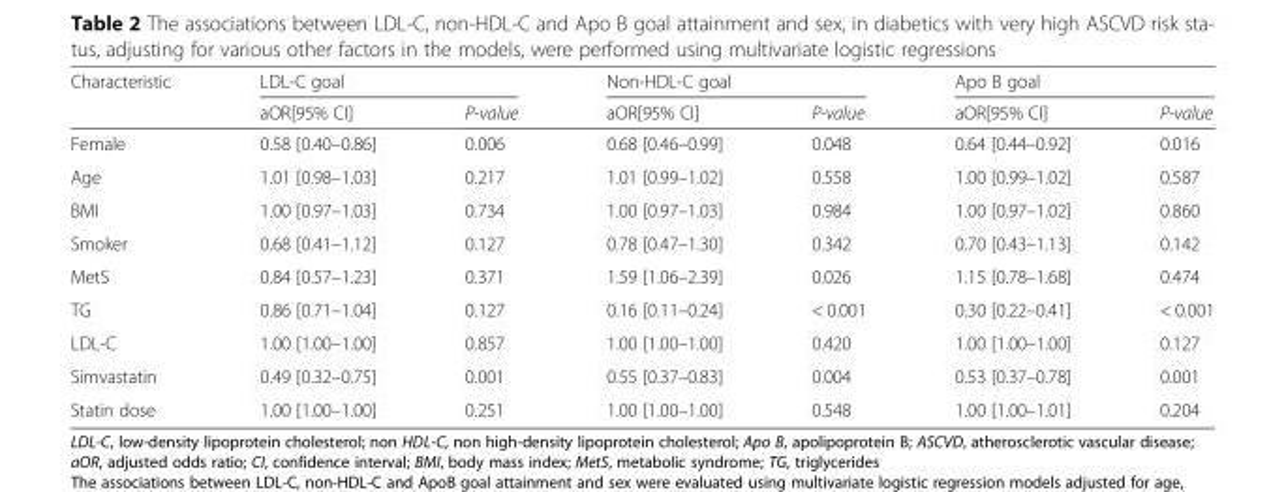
<table><thead><tr><td rowspan="2">Characteristic</td><td colspan="2">LDL-C goal</td><td colspan="2">Non-HDL-C goal</td><td colspan="2">Apo B goal</td></tr><tr><td>aOR[95% CI]</td><td>P-value</td><td>aOR[95% CI]</td><td>P-value</td><td>aOR[95% CI]</td><td>P-value</td></tr></thead><tbody><tr><td>Female</td><td>0.58 [0.40–0.86]</td><td>0.006</td><td>0.68 [0.46–0.99]</td><td>0.048</td><td>0.64 [0.44–0.92]</td><td>0.016</td></tr><tr><td>Age</td><td>1.01 [0.98–1.03]</td><td>0.217</td><td>1.01 [0.99–1.02]</td><td>0.558</td><td>1.00 [0.99–1.02]</td><td>0.587</td></tr><tr><td>BMI</td><td>1.00 [0.97–1.03]</td><td>0.734</td><td>1.00 [0.97–1.03]</td><td>0.984</td><td>1.00 [0.97–1.02]</td><td>0.860</td></tr><tr><td>Smoker</td><td>0.68 [0.41–1.12]</td><td>0.127</td><td>0.78 [0.47–1.30]</td><td>0.342</td><td>0.70 [0.43–1.13]</td><td>0.142</td></tr><tr><td>MetS</td><td>0.84 [0.57–1.23]</td><td>0.371</td><td>1.59 [1.06–2.39]</td><td>0.026</td><td>1.15 [0.78–1.68]</td><td>0.474</td></tr><tr><td>TG</td><td>0.86 [0.71–1.04]</td><td>0.127</td><td>0.16 [0.11–0.24]</td><td>&lt; 0.001</td><td>0.30 [0.22–0.41]</td><td>&lt; 0.001</td></tr><tr><td>LDL-C</td><td>1.00 [1.00–1.00]</td><td>0.857</td><td>1.00 [1.00–1.00]</td><td>0.420</td><td>1.00 [1.00–1.00]</td><td>0.127</td></tr><tr><td>Simvastatin</td><td>0.49 [0.32–0.75]</td><td>0.001</td><td>0.55 [0.37–0.83]</td><td>0.004</td><td>0.53 [0.37–0.78]</td><td>0.001</td></tr><tr><td>Statin dose</td><td>1.00 [1.00–1.00]</td><td>0.251</td><td>1.00 [1.00–1.00]</td><td>0.548</td><td>1.00 [1.00–1.01]</td><td>0.204</td></tr></tbody></table>